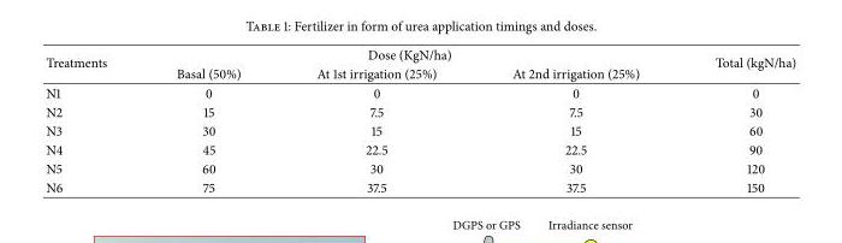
<table><thead><tr><td rowspan="2">Treatments</td><td colspan="3">Dose (KgN/ha)</td><td rowspan="2">Total (kgN/ha)</td></tr><tr><td>Basal (50%)</td><td>At 1st irrigation (25%)</td><td>At 2nd irrigation (25%)</td></tr></thead><tbody><tr><td>N1</td><td>0</td><td>0</td><td>0</td><td>0</td></tr><tr><td>N2</td><td>15</td><td>7.5</td><td>7.5</td><td>30</td></tr><tr><td>N3</td><td>30</td><td>15</td><td>15</td><td>60</td></tr><tr><td>N4</td><td>45</td><td>22.5</td><td>22.5</td><td>90</td></tr><tr><td>N5</td><td>60</td><td>30</td><td>30</td><td>120</td></tr><tr><td>N6</td><td>75</td><td>37.5</td><td>37.5</td><td>150</td></tr></tbody></table>